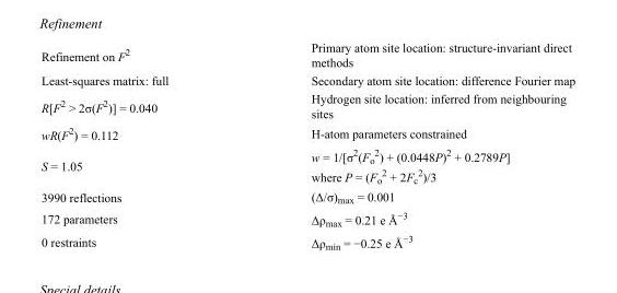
<table><tbody><tr><td>Refinement on F<sup>2</sup></td><td>Primary atom site location: structure-invariant direct methods</td></tr><tr><td>Least-squares matrix: full</td><td>Secondary atom site location: difference Fourier map</td></tr><tr><td>R[F<sup>2</sup> &gt; 2σ(F<sup>2</sup>)] = 0.040</td><td>Hydrogen site location: inferred from neighbouring sites</td></tr><tr><td>wR(F<sup>2</sup>) = 0.112</td><td>H-atom parameters constrained</td></tr><tr><td>S = 1.05</td><td>w = 1/[σ<sup>2</sup>(F<sub>o</sub> <sup>2</sup>) + (0.0448P)<sup>2</sup> + 0.2789P] where P = (F<sub>o</sub> <sup>2</sup> + 2F<sub>c</sub> <sup>2</sup>)/3</td></tr><tr><td>3990 reflections</td><td>(Δ/σ)<sub>max</sub> = 0.001</td></tr><tr><td>172 parameters</td><td>Δρ<sub>max</sub> = 0.21 e Å<sup>−3</sup></td></tr><tr><td>0 restraints</td><td>Δρ<sub>min</sub> = −0.25 e Å<sup>−3</sup></td></tr></tbody></table>